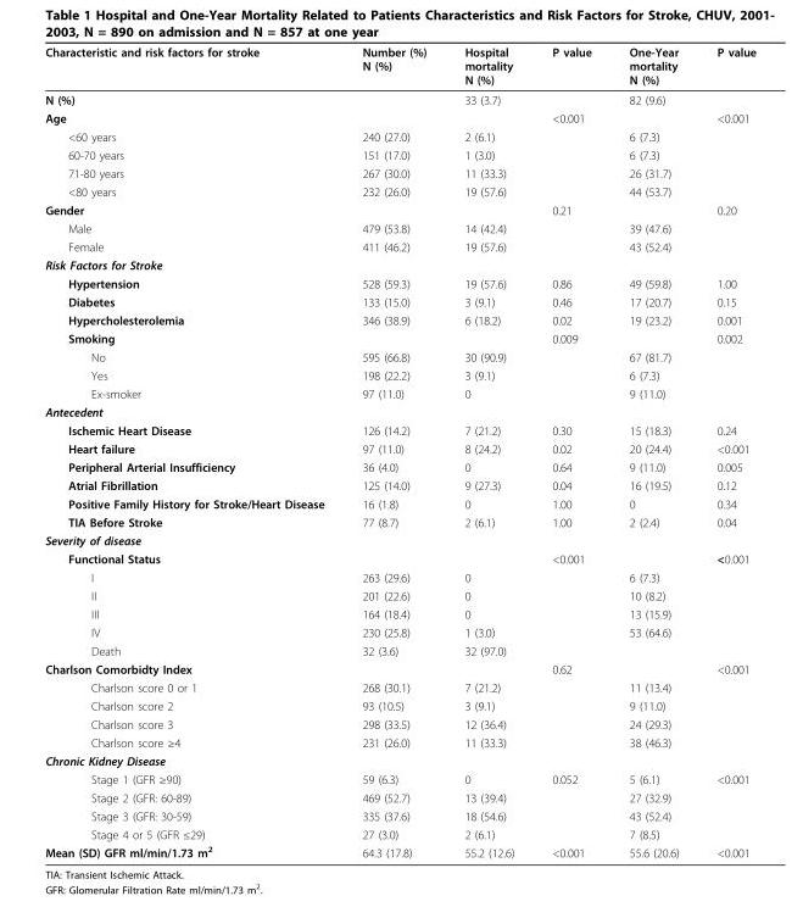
<table><thead><tr><td>Characteristic and risk factors for stroke</td><td>Number (%) N (%)</td><td>Hospital mortality N (%)</td><td>P value</td><td>One-Year mortality N (%)</td><td>P value</td></tr></thead><tbody><tr><td>N (%)</td><td></td><td>33 (3.7)</td><td></td><td>82 (9.6)</td><td></td></tr><tr><td>Age</td><td></td><td></td><td>&lt;0.001</td><td></td><td>&lt;0.001</td></tr><tr><td>&lt;60 years</td><td>240 (27.0)</td><td>2 (6.1)</td><td></td><td>6 (7.3)</td><td></td></tr><tr><td>60-70 years</td><td>151 (17.0)</td><td>1 (3.0)</td><td></td><td>6 (7.3)</td><td></td></tr><tr><td>71-80 years</td><td>267 (30.0)</td><td>11 (33.3)</td><td></td><td>26 (31.7)</td><td></td></tr><tr><td>&lt;80 years</td><td>232 (26.0)</td><td>19 (57.6)</td><td></td><td>44 (53.7)</td><td></td></tr><tr><td>Gender</td><td></td><td></td><td>0.21</td><td></td><td>0.20</td></tr><tr><td>Male</td><td>479 (53.8)</td><td>14 (42.4)</td><td></td><td>39 (47.6)</td><td></td></tr><tr><td>Female</td><td>411 (46.2)</td><td>19 (57.6)</td><td></td><td>43 (52.4)</td><td></td></tr><tr><td colspan="6">Risk Factors for Stroke</td></tr><tr><td>Hypertension</td><td>528 (59.3)</td><td>19 (57.6)</td><td>0.86</td><td>49 (59.8)</td><td>1.00</td></tr><tr><td>Diabetes</td><td>133 (15.0)</td><td>3 (9.1)</td><td>0.46</td><td>17 (20.7)</td><td>0.15</td></tr><tr><td>Hypercholesterolemia</td><td>346 (38.9)</td><td>6 (18.2)</td><td>0.02</td><td>19 (23.2)</td><td>0.001</td></tr><tr><td>Smoking</td><td></td><td></td><td>0.009</td><td></td><td>0.002</td></tr><tr><td>No</td><td>595 (66.8)</td><td>30 (90.9)</td><td></td><td>67 (81.7)</td><td></td></tr><tr><td>Yes</td><td>198 (22.2)</td><td>3 (9.1)</td><td></td><td>6 (7.3)</td><td></td></tr><tr><td>Ex-smoker</td><td>97 (11.0)</td><td>0</td><td></td><td>9 (11.0)</td><td></td></tr><tr><td colspan="6">Antecedent</td></tr><tr><td>Ischemic Heart Disease</td><td>126 (14.2)</td><td>7 (21.2)</td><td>0.30</td><td>15 (18.3)</td><td>0.24</td></tr><tr><td>Heart failure</td><td>97 (11.0)</td><td>8 (24.2)</td><td>0.02</td><td>20 (24.4)</td><td>&lt;0.001</td></tr><tr><td>Peripheral Arterial Insufficiency</td><td>36 (4.0)</td><td>0</td><td>0.64</td><td>9 (11.0)</td><td>0.005</td></tr><tr><td>Atrial Fibrillation</td><td>125 (14.0)</td><td>9 (27.3)</td><td>0.04</td><td>16 (19.5)</td><td>0.12</td></tr><tr><td>Positive Family History for Stroke/Heart Disease</td><td>16 (1.8)</td><td>0</td><td>1.00</td><td>0</td><td>0.34</td></tr><tr><td>TIA Before Stroke</td><td>77 (8.7)</td><td>2 (6.1)</td><td>1.00</td><td>2 (2.4)</td><td>0.04</td></tr><tr><td colspan="6">Severity of disease</td></tr><tr><td>Functional Status</td><td></td><td></td><td>&lt;0.001</td><td></td><td>&lt;0.001</td></tr><tr><td>I</td><td>263 (29.6)</td><td>0</td><td></td><td>6 (7.3)</td><td></td></tr><tr><td>II</td><td>201 (22.6)</td><td>0</td><td></td><td>10 (8.2)</td><td></td></tr><tr><td>III</td><td>164 (18.4)</td><td>0</td><td></td><td>13 (15.9)</td><td></td></tr><tr><td>IV</td><td>230 (25.8)</td><td>1 (3.0)</td><td></td><td>53 (64.6)</td><td></td></tr><tr><td>Death</td><td>32 (3.6)</td><td>32 (97.0)</td><td></td><td></td><td></td></tr><tr><td>Charlson Comorbidty Index</td><td></td><td></td><td>0.62</td><td></td><td>&lt;0.001</td></tr><tr><td>Charlson score 0 or 1</td><td>268 (30.1)</td><td>7 (21.2)</td><td></td><td>11 (13.4)</td><td></td></tr><tr><td>Charlson score 2</td><td>93 (10.5)</td><td>3 (9.1)</td><td></td><td>9 (11.0)</td><td></td></tr><tr><td>Charlson score 3</td><td>298 (33.5)</td><td>12 (36.4)</td><td></td><td>24 (29.3)</td><td></td></tr><tr><td>Charlson score ≥4</td><td>231 (26.0)</td><td>11 (33.3)</td><td></td><td>38 (46.3)</td><td></td></tr><tr><td colspan="6">Chronic Kidney Disease</td></tr><tr><td>Stage 1 (GFR ≥90)</td><td>59 (6.3)</td><td>0</td><td>0.052</td><td>5 (6.1)</td><td>&lt;0.001</td></tr><tr><td>Stage 2 (GFR: 60-89)</td><td>469 (52.7)</td><td>13 (39.4)</td><td></td><td>27 (32.9)</td><td></td></tr><tr><td>Stage 3 (GFR: 30-59)</td><td>335 (37.6)</td><td>18 (54.6)</td><td></td><td>43 (52.4)</td><td></td></tr><tr><td>Stage 4 or 5 (GFR ≤29)</td><td>27 (3.0)</td><td>2 (6.1)</td><td></td><td>7 (8.5)</td><td></td></tr><tr><td>Mean (SD) GFR ml/min/1.73 m<sup>2</sup></td><td>64.3 (17.8)</td><td>55.2 (12.6)</td><td>&lt;0.001</td><td>55.6 (20.6)</td><td>&lt;0.001</td></tr></tbody></table>